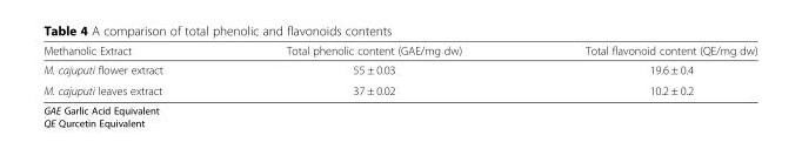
<table><thead><tr><td>Methanolic Extract</td><td>Total phenolic content (GAE/mg dw)</td><td>Total flavonoid content (QE/mg dw)</td></tr></thead><tbody><tr><td>M. cajuputi flower extract</td><td>55 ± 0.03</td><td>19.6 ± 0.4</td></tr><tr><td>M. cajuputi leaves extract</td><td>37 ± 0.02</td><td>10.2 ± 0.2</td></tr></tbody></table>